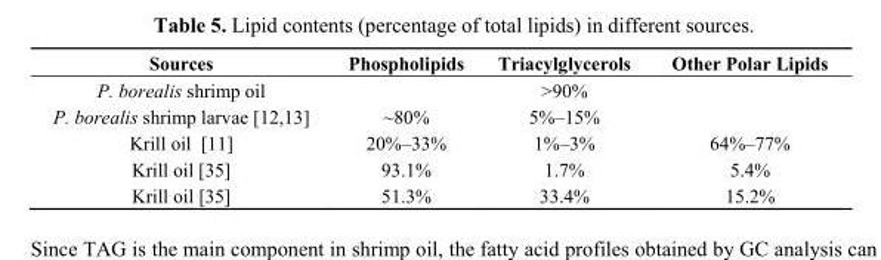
<table><thead><tr><td>Sources</td><td>Phospholipids</td><td>Triacylglycerols</td><td>Other Polar Lipids</td></tr></thead><tbody><tr><td>P. borealis shrimp oil</td><td></td><td>&gt;90%</td><td></td></tr><tr><td>P. borealis shrimp larvae [12,13]</td><td>~80%</td><td>5%–15%</td><td></td></tr><tr><td>Krill oil [11]</td><td>20%–33%</td><td>1%–3%</td><td>64%–77%</td></tr><tr><td>Krill oil [35]</td><td>93.1%</td><td>1.7%</td><td>5.4%</td></tr><tr><td>Krill oil [35]</td><td>51.3%</td><td>33.4%</td><td>15.2%</td></tr></tbody></table>